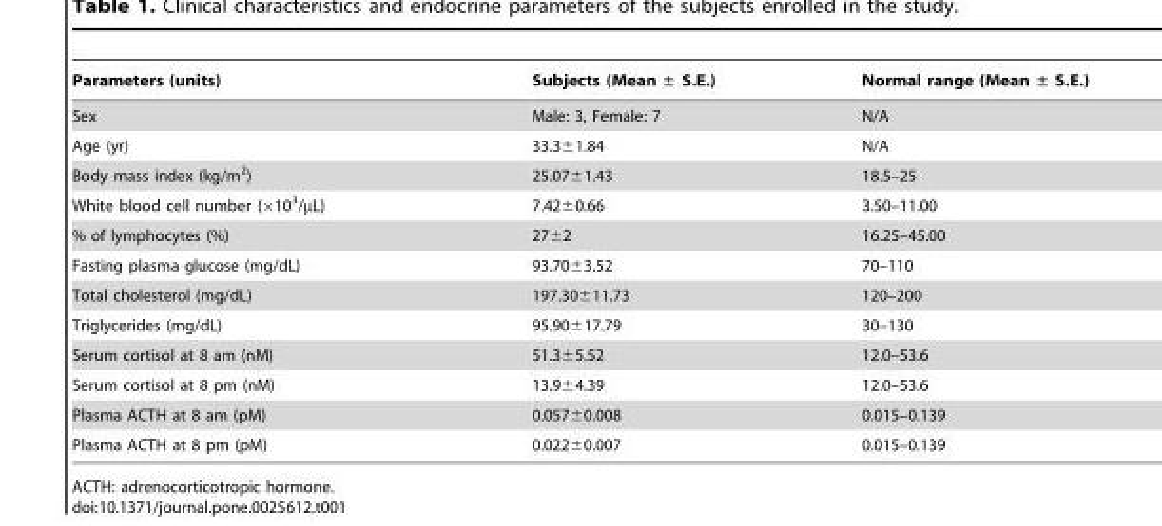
<table><thead><tr><td>Parameters (units)</td><td>Subjects (Mean ± S.E.)</td><td>Normal range (Mean ± S.E.)</td></tr></thead><tbody><tr><td>Sex</td><td>Male: 3, Female: 7</td><td>N/A</td></tr><tr><td>Age (yr)</td><td>33.3±1.84</td><td>N/A</td></tr><tr><td>Body mass index (kg/m<sup>2</sup>)</td><td>25.07±1.43</td><td>18.5–25</td></tr><tr><td>White blood cell number (×10<sup>3</sup>/µL)</td><td>7.42±0.66</td><td>3.50–11.00</td></tr><tr><td>% of lymphocytes (%)</td><td>27±2</td><td>16.25–45.00</td></tr><tr><td>Fasting plasma glucose (mg/dL)</td><td>93.70±3.52</td><td>70–110</td></tr><tr><td>Total cholesterol (mg/dL)</td><td>197.30±11.73</td><td>120–200</td></tr><tr><td>Triglycerides (mg/dL)</td><td>95.90±17.79</td><td>30–130</td></tr><tr><td>Serum cortisol at 8 am (nM)</td><td>51.3±5.52</td><td>12.0–53.6</td></tr><tr><td>Serum cortisol at 8 pm (nM)</td><td>13.9±4.39</td><td>12.0–53.6</td></tr><tr><td>Plasma ACTH at 8 am (pM)</td><td>0.057±0.008</td><td>0.015–0.139</td></tr><tr><td>Plasma ACTH at 8 pm (pM)</td><td>0.022±0.007</td><td>0.015–0.139</td></tr></tbody></table>